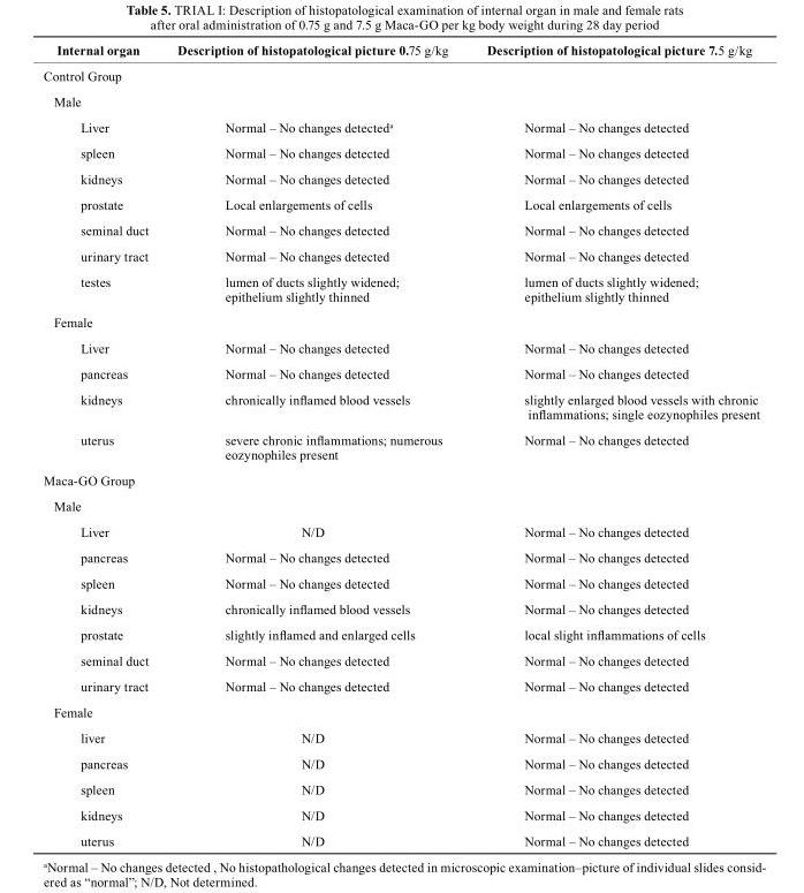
<table><thead><tr><td>Internal organ</td><td>Description of histopatological picture 0.75 g/kg</td><td>Description of histopatological picture 7.5 g/kg</td></tr></thead><tbody><tr><td colspan="3">Control Group</td></tr><tr><td colspan="3">Male</td></tr><tr><td>Liver</td><td>Normal – No changes detected<sup>a</sup></td><td>Normal – No changes detected</td></tr><tr><td>spleen</td><td>Normal – No changes detected</td><td>Normal – No changes detected</td></tr><tr><td>kidneys</td><td>Normal – No changes detected</td><td>Normal – No changes detected</td></tr><tr><td>prostate</td><td>Local enlargements of cells</td><td>Local enlargements of cells</td></tr><tr><td>seminal duct</td><td>Normal – No changes detected</td><td>Normal – No changes detected</td></tr><tr><td>urinary tract</td><td>Normal – No changes detected</td><td>Normal – No changes detected</td></tr><tr><td>testes</td><td>lumen of ducts slightly widened; epithelium slightly thinned</td><td>lumen of ducts slightly widened; epithelium slightly thinned</td></tr><tr><td colspan="3">Female</td></tr><tr><td>Liver</td><td>Normal – No changes detected</td><td>Normal – No changes detected</td></tr><tr><td>pancreas</td><td>Normal – No changes detected</td><td>Normal – No changes detected</td></tr><tr><td>kidneys</td><td>chronically inflamed blood vessels</td><td>slightly enlarged blood vessels with chronic inflammations; single eozynophiles present</td></tr><tr><td>uterus</td><td>severe chronic inflammations; numerous eozynophiles present</td><td>Normal – No changes detected</td></tr><tr><td colspan="3">Maca-GO Group</td></tr><tr><td colspan="3">Male</td></tr><tr><td>Liver</td><td>N/D</td><td>Normal – No changes detected</td></tr><tr><td>pancreas</td><td>Normal – No changes detected</td><td>Normal – No changes detected</td></tr><tr><td>spleen</td><td>Normal – No changes detected</td><td>Normal – No changes detected</td></tr><tr><td>kidneys</td><td>chronically inflamed blood vessels</td><td>Normal – No changes detected</td></tr><tr><td>prostate</td><td>slightly inflamed and enlarged cells</td><td>local slight inflammations of cells</td></tr><tr><td>seminal duct</td><td>Normal – No changes detected</td><td>Normal – No changes detected</td></tr><tr><td>urinary tract</td><td>Normal – No changes detected</td><td>Normal – No changes detected</td></tr><tr><td colspan="3">Female</td></tr><tr><td>liver</td><td>N/D</td><td>Normal – No changes detected</td></tr><tr><td>pancreas</td><td>N/D</td><td>Normal – No changes detected</td></tr><tr><td>spleen</td><td>N/D</td><td>Normal – No changes detected</td></tr><tr><td>kidneys</td><td>N/D</td><td>Normal – No changes detected</td></tr><tr><td>uterus</td><td>N/D</td><td>Normal – No changes detected</td></tr></tbody></table>